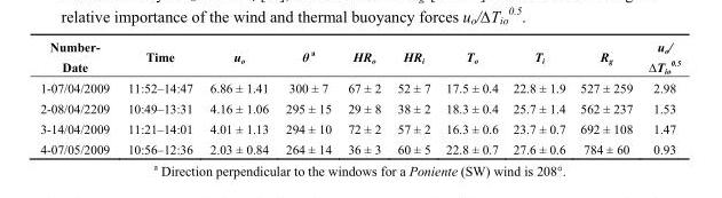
<table><thead><tr><td>Number- Date</td><td>Time</td><td>u<sub>o</sub></td><td>θ <sup>a</sup></td><td>HR<sub>o</sub></td><td>HR<sub>i</sub></td><td>T<sub>o</sub></td><td>T<sub>i</sub></td><td>R<sub>g</sub></td><td>uo/ ∆Tio 0.5</td></tr></thead><tbody><tr><td>1-07/04/2009</td><td>11:52–14:47</td><td>6.86 ± 1.41</td><td>300 ± 7</td><td>67 ± 2</td><td>52 ± 7</td><td>17.5 ± 0.4</td><td>22.8 ± 1.9</td><td>527 ± 259</td><td>2.98</td></tr><tr><td>2-08/04/2209</td><td>10:49–13:31</td><td>4.16 ± 1.06</td><td>295 ± 15</td><td>29 ± 8</td><td>38 ± 2</td><td>18.3 ± 0.4</td><td>25.7 ± 1.4</td><td>562 ± 237</td><td>1.53</td></tr><tr><td>3-14/04/2009</td><td>11:21–14:01</td><td>4.01 ± 1.13</td><td>294 ± 10</td><td>72 ± 2</td><td>57 ± 2</td><td>16.3 ± 0.6</td><td>23.7 ± 0.7</td><td>692 ± 108</td><td>1.47</td></tr><tr><td>4-07/05/2009</td><td>10:56–12:36</td><td>2.03 ± 0.84</td><td>264 ± 14</td><td>36 ± 3</td><td>60 ± 5</td><td>22.8 ± 0.7</td><td>27.6 ± 0.6</td><td>784 ± 60</td><td>0.93</td></tr></tbody></table>